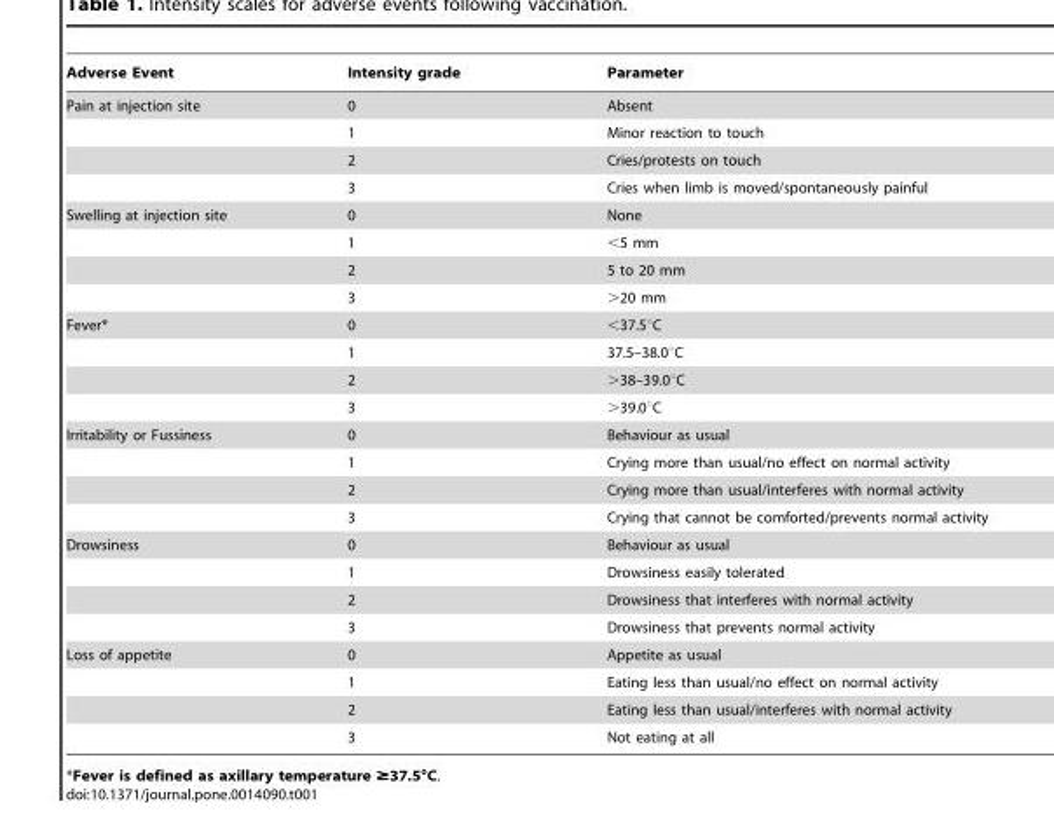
<table><thead><tr><td>Adverse Event</td><td>Intensity grade</td><td>Parameter</td></tr></thead><tbody><tr><td rowspan="4">Pain at injection site</td><td>0</td><td>Absent</td></tr><tr><td>1</td><td>Minor reaction to touch</td></tr><tr><td>2</td><td>Cries/protests on touch</td></tr><tr><td>3</td><td>Cries when limb is moved/spontaneously painful</td></tr><tr><td rowspan="4">Swelling at injection site</td><td>0</td><td>None</td></tr><tr><td>1</td><td>&lt;5 mm</td></tr><tr><td>2</td><td>5 to 20 mm</td></tr><tr><td>3</td><td>&gt;20 mm</td></tr><tr><td rowspan="4">Fever*</td><td>0</td><td>&lt;37.5°C</td></tr><tr><td>1</td><td>37.5–38.0°C</td></tr><tr><td>2</td><td>&gt;38–39.0°C</td></tr><tr><td>3</td><td>&gt;39.0°C</td></tr><tr><td rowspan="4">Irritability or Fussiness</td><td>0</td><td>Behaviour as usual</td></tr><tr><td>1</td><td>Crying more than usual/no effect on normal activity</td></tr><tr><td>2</td><td>Crying more than usual/interferes with normal activity</td></tr><tr><td>3</td><td>Crying that cannot be comforted/prevents normal activity</td></tr><tr><td rowspan="4">Drowsiness</td><td>0</td><td>Behaviour as usual</td></tr><tr><td>1</td><td>Drowsiness easily tolerated</td></tr><tr><td>2</td><td>Drowsiness that interferes with normal activity</td></tr><tr><td>3</td><td>Drowsiness that prevents normal activity</td></tr><tr><td rowspan="4">Loss of appetite</td><td>0</td><td>Appetite as usual</td></tr><tr><td>1</td><td>Eating less than usual/no effect on normal activity</td></tr><tr><td>2</td><td>Eating less than usual/interferes with normal activity</td></tr><tr><td>3</td><td>Not eating at all</td></tr></tbody></table>